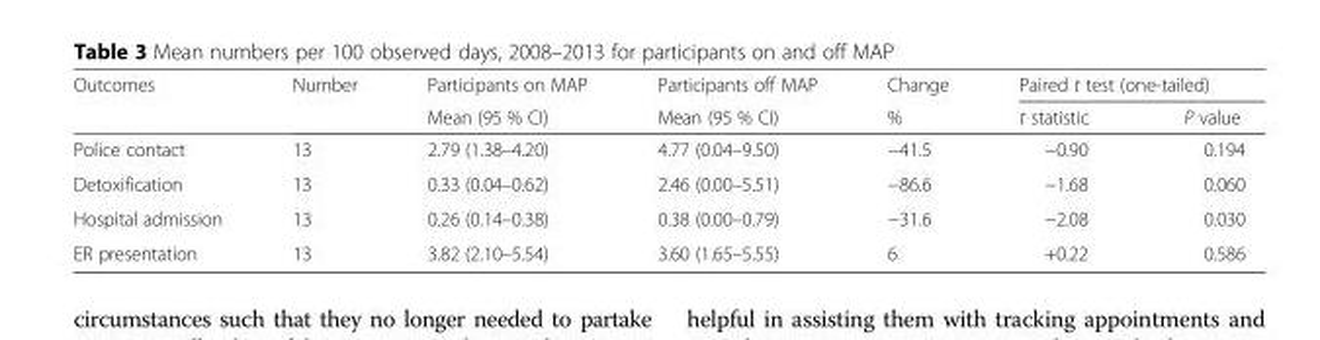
<table><thead><tr><td rowspan="2">Outcomes</td><td rowspan="2">Number</td><td rowspan="2">Participants on MAP Mean (95 % CI)</td><td rowspan="2">Participants off MAP Mean (95 % CI)</td><td rowspan="2">Change %</td><td colspan="2">Paired t test (one-tailed)</td></tr><tr><td>t statistic</td><td>P value</td></tr></thead><tbody><tr><td>Police contact</td><td>13</td><td>2.79 (1.38–4.20)</td><td>4.77 (0.04–9.50)</td><td>−41.5</td><td>−0.90</td><td>0.194</td></tr><tr><td>Detoxification</td><td>13</td><td>0.33 (0.04–0.62)</td><td>2.46 (0.00–5.51)</td><td>−86.6</td><td>−1.68</td><td>0.060</td></tr><tr><td>Hospital admission</td><td>13</td><td>0.26 (0.14–0.38)</td><td>0.38 (0.00–0.79)</td><td>−31.6</td><td>−2.08</td><td>0.030</td></tr><tr><td>ER presentation</td><td>13</td><td>3.82 (2.10–5.54)</td><td>3.60 (1.65–5.55)</td><td>6</td><td>+0.22</td><td>0.586</td></tr></tbody></table>